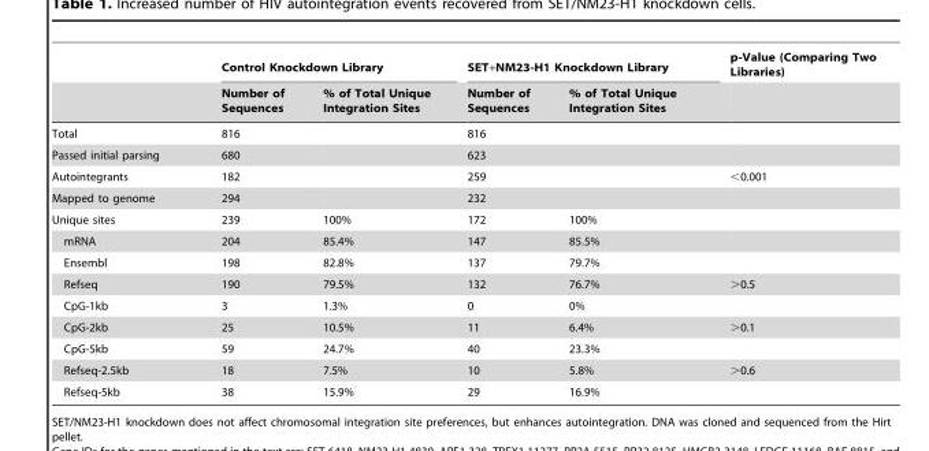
<table><thead><tr><td rowspan="2"></td><td colspan="2">Control Knockdown Library</td><td colspan="2">SET+NM23-H1 Knockdown Library</td><td rowspan="2">p-Value (Comparing Two Libraries)</td></tr><tr><td>Number of Sequences</td><td>% of Total Unique Integration Sites</td><td>Number of Sequences</td><td>% of Total Unique Integration Sites</td></tr></thead><tbody><tr><td>Total</td><td>816</td><td></td><td>816</td><td></td><td></td></tr><tr><td>Passed initial parsing</td><td>680</td><td></td><td>623</td><td></td><td></td></tr><tr><td>Autointegrants</td><td>182</td><td></td><td>259</td><td></td><td>&lt;0.001</td></tr><tr><td>Mapped to genome</td><td>294</td><td></td><td>232</td><td></td><td></td></tr><tr><td>Unique sites</td><td>239</td><td>100%</td><td>172</td><td>100%</td><td></td></tr><tr><td>mRNA</td><td>204</td><td>85.4%</td><td>147</td><td>85.5%</td><td></td></tr><tr><td>Ensembl</td><td>198</td><td>82.8%</td><td>137</td><td>79.7%</td><td></td></tr><tr><td>Refseq</td><td>190</td><td>79.5%</td><td>132</td><td>76.7%</td><td>&gt;0.5</td></tr><tr><td>CpG-1kb</td><td>3</td><td>1.3%</td><td>0</td><td>0%</td><td></td></tr><tr><td>CpG-2kb</td><td>25</td><td>10.5%</td><td>11</td><td>6.4%</td><td>&gt;0.1</td></tr><tr><td>CpG-5kb</td><td>59</td><td>24.7%</td><td>40</td><td>23.3%</td><td></td></tr><tr><td>Refseq-2.5kb</td><td>18</td><td>7.5%</td><td>10</td><td>5.8%</td><td>&gt;0.6</td></tr><tr><td>Refseq-5kb</td><td>38</td><td>15.9%</td><td>29</td><td>16.9%</td><td></td></tr></tbody></table>